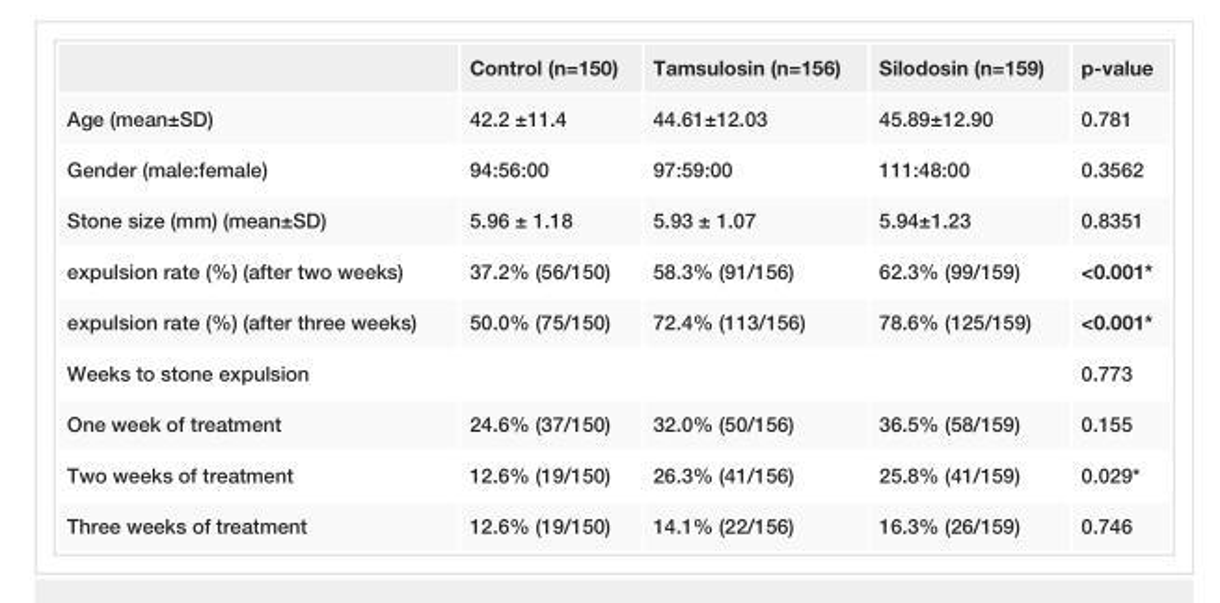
<table><thead><tr><td></td><td>Control (n=150)</td><td>Tamsulosin (n=156)</td><td>Silodosin (n=159)</td><td>p-value</td></tr></thead><tbody><tr><td>Age (mean±SD)</td><td>42.2 ±11.4</td><td>44.61±12.03</td><td>45.89±12.90</td><td>0.781</td></tr><tr><td>Gender (male:female)</td><td>94:56:00</td><td>97:59:00</td><td>111:48:00</td><td>0.3562</td></tr><tr><td>Stone size (mm) (mean±SD)</td><td>5.96 ± 1.18</td><td>5.93 ± 1.07</td><td>5.94±1.23</td><td>0.8351</td></tr><tr><td>expulsion rate (%) (after two weeks)</td><td>37.2% (56/150)</td><td>58.3% (91/156)</td><td>62.3% (99/159)</td><td>&lt;0.001*</td></tr><tr><td>expulsion rate (%) (after three weeks)</td><td>50.0% (75/150)</td><td>72.4% (113/156)</td><td>78.6% (125/159)</td><td>&lt;0.001*</td></tr><tr><td colspan="3">Weeks to stone expulsion</td><td></td><td>0.773</td></tr><tr><td>One week of treatment</td><td>24.6% (37/150)</td><td>32.0% (50/156)</td><td>36.5% (58/159)</td><td>0.155</td></tr><tr><td>Two weeks of treatment</td><td>12.6% (19/150)</td><td>26.3% (41/156)</td><td>25.8% (41/159)</td><td>0.029*</td></tr><tr><td>Three weeks of treatment</td><td>12.6% (19/150)</td><td>14.1% (22/156)</td><td>16.3% (26/159)</td><td>0.746</td></tr></tbody></table>